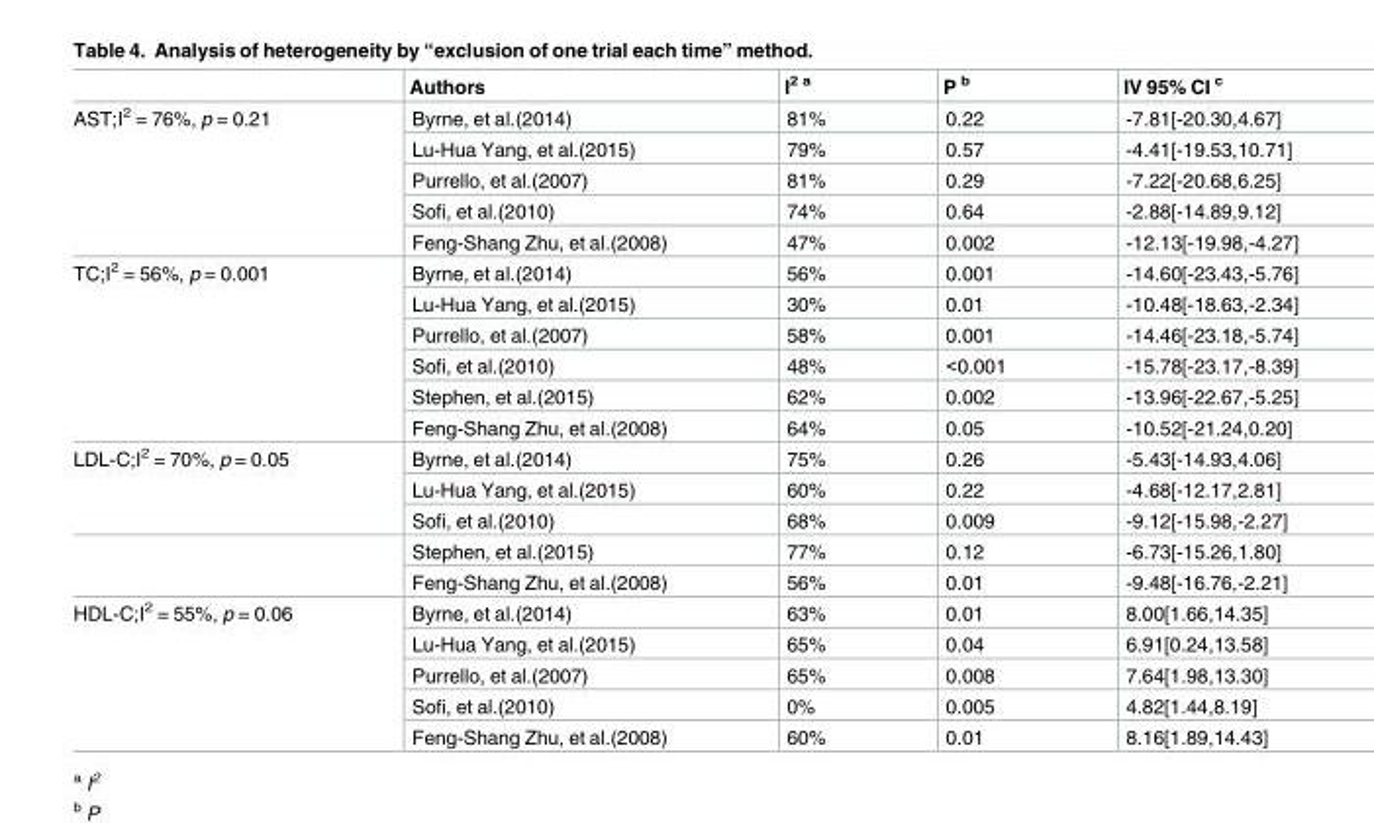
<table><thead><tr><td></td><td>Authors</td><td>I<sup>2 a</sup></td><td>P <sup>b</sup></td><td>IV 95% CI <sup>c</sup></td></tr></thead><tbody><tr><td rowspan="5">AST;I<sup>2</sup> = 76%, p = 0.21</td><td>Byrne, et al.(2014)</td><td>81%</td><td>0.22</td><td>-7.81[-20.30,4.67]</td></tr><tr><td>Lu-Hua Yang, et al.(2015)</td><td>79%</td><td>0.57</td><td>-4.41[-19.53,10.71]</td></tr><tr><td>Purrello, et al.(2007)</td><td>81%</td><td>0.29</td><td>-7.22[-20.68,6.25]</td></tr><tr><td>Sofi, et al.(2010)</td><td>74%</td><td>0.64</td><td>-2.88[-14.89,9.12]</td></tr><tr><td>Feng-Shang Zhu, et al.(2008)</td><td>47%</td><td>0.002</td><td>-12.13[-19.98,-4.27]</td></tr><tr><td rowspan="6">TC;I<sup>2</sup> = 56%, p = 0.001</td><td>Byrne, et al.(2014)</td><td>56%</td><td>0.001</td><td>-14.60[-23.43,-5.76]</td></tr><tr><td>Lu-Hua Yang, et al.(2015)</td><td>30%</td><td>0.01</td><td>-10.48[-18.63,-2.34]</td></tr><tr><td>Purrello, et al.(2007)</td><td>58%</td><td>0.001</td><td>-14.46[-23.18,-5.74]</td></tr><tr><td>Sofi, et al.(2010)</td><td>48%</td><td>&lt;0.001</td><td>-15.78[-23.17,-8.39]</td></tr><tr><td>Stephen, et al.(2015)</td><td>62%</td><td>0.002</td><td>-13.96[-22.67,-5.25]</td></tr><tr><td>Feng-Shang Zhu, et al.(2008)</td><td>64%</td><td>0.05</td><td>-10.52[-21.24,0.20]</td></tr><tr><td rowspan="5">LDL-C;I<sup>2</sup> = 70%, p = 0.05</td><td>Byrne, et al.(2014)</td><td>75%</td><td>0.26</td><td>-5.43[-14.93,4.06]</td></tr><tr><td>Lu-Hua Yang, et al.(2015)</td><td>60%</td><td>0.22</td><td>-4.68[-12.17,2.81]</td></tr><tr><td>Sofi, et al.(2010)</td><td>68%</td><td>0.009</td><td>-9.12[-15.98,-2.27]</td></tr><tr><td>Stephen, et al.(2015)</td><td>77%</td><td>0.12</td><td>-6.73[-15.26,1.80]</td></tr><tr><td>Feng-Shang Zhu, et al.(2008)</td><td>56%</td><td>0.01</td><td>-9.48[-16.76,-2.21]</td></tr><tr><td rowspan="5">HDL-C;I<sup>2</sup> = 55%, p = 0.06</td><td>Byrne, et al.(2014)</td><td>63%</td><td>0.01</td><td>8.00[1.66,14.35]</td></tr><tr><td>Lu-Hua Yang, et al.(2015)</td><td>65%</td><td>0.04</td><td>6.91[0.24,13.58]</td></tr><tr><td>Purrello, et al.(2007)</td><td>65%</td><td>0.008</td><td>7.64[1.98,13.30]</td></tr><tr><td>Sofi, et al.(2010)</td><td>0%</td><td>0.005</td><td>4.82[1.44,8.19]</td></tr><tr><td>Feng-Shang Zhu, et al.(2008)</td><td>60%</td><td>0.01</td><td>8.16[1.89,14.43]</td></tr></tbody></table>